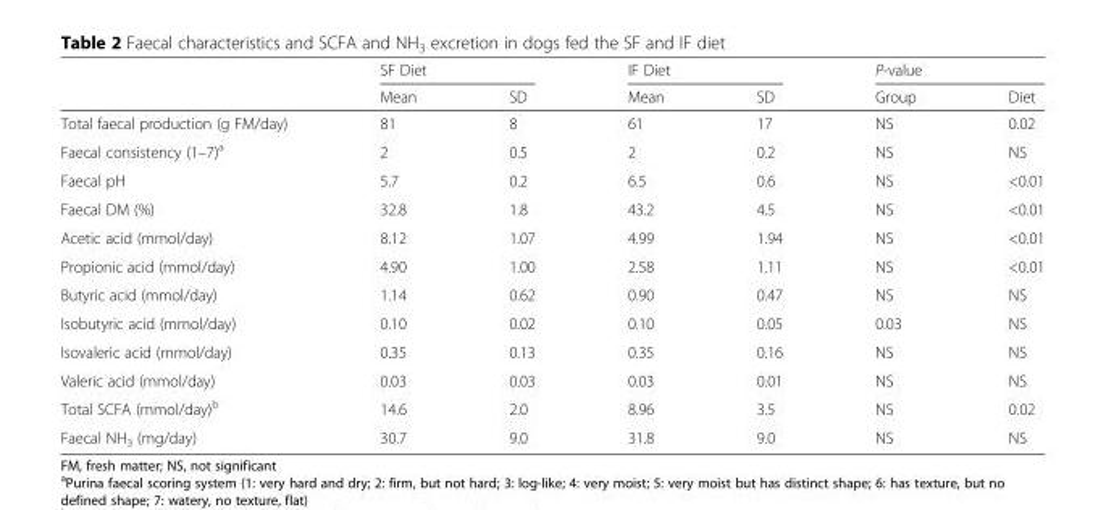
<table><thead><tr><td rowspan="2"></td><td colspan="2">SF Diet</td><td colspan="2">IF Diet</td><td colspan="2">P-value</td></tr><tr><td>Mean</td><td>SD</td><td>Mean</td><td>SD</td><td>Group</td><td>Diet</td></tr></thead><tbody><tr><td>Total faecal production (g FM/day)</td><td>81</td><td>8</td><td>61</td><td>17</td><td>NS</td><td>0.02</td></tr><tr><td>Faecal consistency (1–7)<sup>a</sup></td><td>2</td><td>0.5</td><td>2</td><td>0.2</td><td>NS</td><td>NS</td></tr><tr><td>Faecal pH</td><td>5.7</td><td>0.2</td><td>6.5</td><td>0.6</td><td>NS</td><td>&lt;0.01</td></tr><tr><td>Faecal DM (%)</td><td>32.8</td><td>1.8</td><td>43.2</td><td>4.5</td><td>NS</td><td>&lt;0.01</td></tr><tr><td>Acetic acid (mmol/day)</td><td>8.12</td><td>1.07</td><td>4.99</td><td>1.94</td><td>NS</td><td>&lt;0.01</td></tr><tr><td>Propionic acid (mmol/day)</td><td>4.90</td><td>1.00</td><td>2.58</td><td>1.11</td><td>NS</td><td>&lt;0.01</td></tr><tr><td>Butyric acid (mmol/day)</td><td>1.14</td><td>0.62</td><td>0.90</td><td>0.47</td><td>NS</td><td>NS</td></tr><tr><td>Isobutyric acid (mmol/day)</td><td>0.10</td><td>0.02</td><td>0.10</td><td>0.05</td><td>0.03</td><td>NS</td></tr><tr><td>Isovaleric acid (mmol/day)</td><td>0.35</td><td>0.13</td><td>0.35</td><td>0.16</td><td>NS</td><td>NS</td></tr><tr><td>Valeric acid (mmol/day)</td><td>0.03</td><td>0.03</td><td>0.03</td><td>0.01</td><td>NS</td><td>NS</td></tr><tr><td>Total SCFA (mmol/day)<sup>b</sup></td><td>14.6</td><td>2.0</td><td>8.96</td><td>3.5</td><td>NS</td><td>0.02</td></tr><tr><td>Faecal NH<sub>3</sub> (mg/day)</td><td>30.7</td><td>9.0</td><td>31.8</td><td>9.0</td><td>NS</td><td>NS</td></tr></tbody></table>